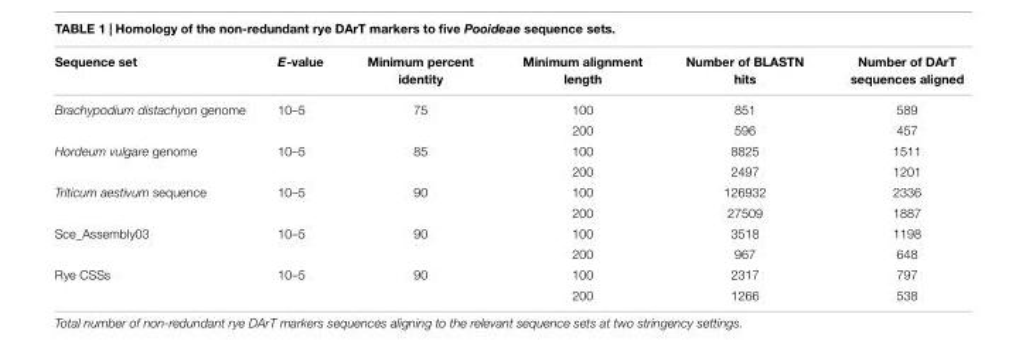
<table><thead><tr><td>Sequence set</td><td>E-value</td><td>Minimum percent identity</td><td>Minimum alignment length</td><td>Number of BLASTN hits</td><td>Number of DArT sequences aligned</td></tr></thead><tbody><tr><td rowspan="2">Brachypodium distachyon genome</td><td>10–5</td><td>75</td><td>100</td><td>851</td><td>589</td></tr><tr><td></td><td></td><td>200</td><td>596</td><td>457</td></tr><tr><td rowspan="2">Hordeum vulgare genome</td><td>10–5</td><td>85</td><td>100</td><td>8825</td><td>1511</td></tr><tr><td></td><td></td><td>200</td><td>2497</td><td>1201</td></tr><tr><td rowspan="2">Triticum aestivum sequence</td><td>10–5</td><td>90</td><td>100</td><td>126932</td><td>2336</td></tr><tr><td></td><td></td><td>200</td><td>27509</td><td>1887</td></tr><tr><td rowspan="2">Sce_Assembly03</td><td>10–5</td><td>90</td><td>100</td><td>3518</td><td>1198</td></tr><tr><td></td><td></td><td>200</td><td>967</td><td>648</td></tr><tr><td rowspan="2">Rye CSSs</td><td>10–5</td><td>90</td><td>100</td><td>2317</td><td>797</td></tr><tr><td></td><td></td><td>200</td><td>1266</td><td>538</td></tr></tbody></table>